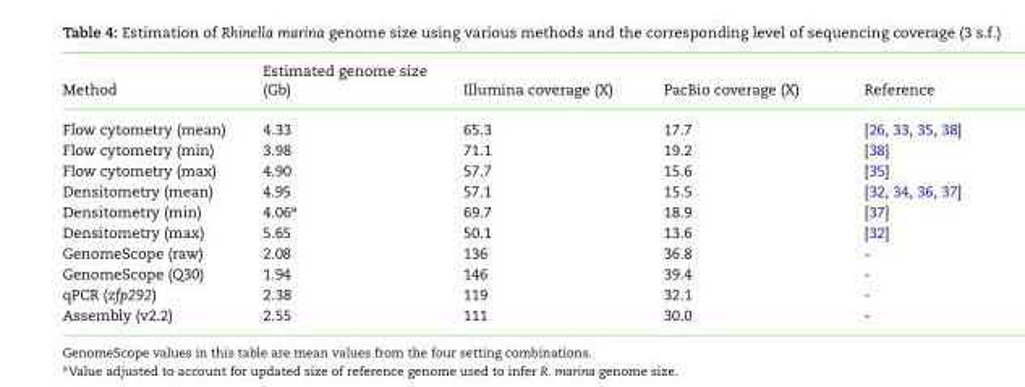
<table><thead><tr><td>Method</td><td>Estimated genome size (Gb)</td><td>Illumina coverage (X)</td><td>PacBio coverage (X)</td><td>Reference</td></tr></thead><tbody><tr><td>Flow cytometry (mean)</td><td>4.33</td><td>65.3</td><td>17.7</td><td>[26, 33, 35, 38]</td></tr><tr><td>Flow cytometry (min)</td><td>3.98</td><td>71.1</td><td>19.2</td><td>[38]</td></tr><tr><td>Flow cytometry (max)</td><td>4.90</td><td>57.7</td><td>15.6</td><td>[35]</td></tr><tr><td>Densitometry (mean)</td><td>4.95</td><td>57.1</td><td>15.5</td><td>[32, 34, 36, 37]</td></tr><tr><td>Densitometry (min)</td><td>4.06<sup>a</sup></td><td>69.7</td><td>18.9</td><td>[37]</td></tr><tr><td>Densitometry (max)</td><td>5.65</td><td>50.1</td><td>13.6</td><td>[32]</td></tr><tr><td>GenomeScope (raw)</td><td>2.08</td><td>136</td><td>36.8</td><td>-</td></tr><tr><td>GenomeScope (Q30)</td><td>1.94</td><td>146</td><td>39.4</td><td>-</td></tr><tr><td>qPCR (zfp292)</td><td>2.38</td><td>119</td><td>32.1</td><td>-</td></tr><tr><td>Assembly (v2.2)</td><td>2.55</td><td>111</td><td>30.0</td><td>-</td></tr></tbody></table>